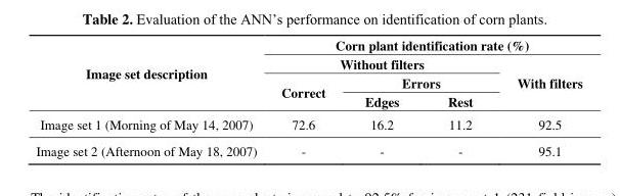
<table><thead><tr><td rowspan="4">Image set description</td><td colspan="4">Corn plant identification rate (%)</td></tr><tr><td colspan="3">Without filters</td><td rowspan="3">With filters</td></tr><tr><td rowspan="2">Correct</td><td colspan="2">Errors</td></tr><tr><td>Edges</td><td>Rest</td></tr></thead><tbody><tr><td>Image set 1 (Morning of May 14, 2007)</td><td>72.6</td><td>16.2</td><td>11.2</td><td>92.5</td></tr><tr><td>Image set 2 (Afternoon of May 18, 2007)</td><td>-</td><td>-</td><td>-</td><td>95.1</td></tr></tbody></table>